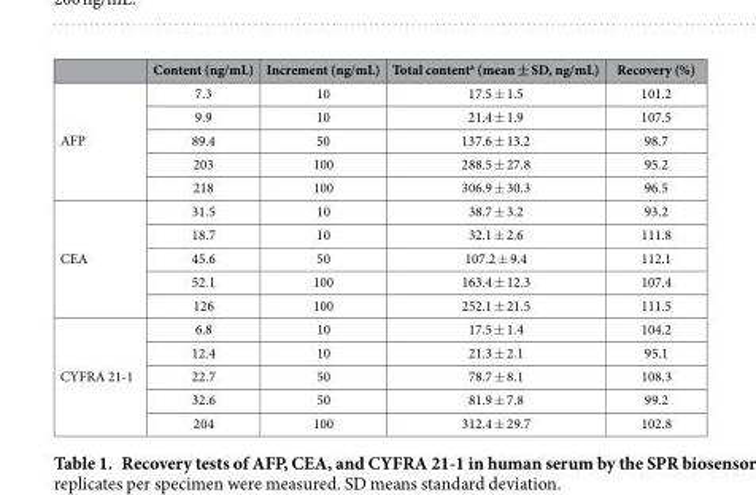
<table><thead><tr><td></td><td>Content (ng/mL)</td><td>Increment (ng/mL)</td><td>Total content<sup>a</sup> (mean ± SD, ng/mL)</td><td>Recovery (%)</td></tr></thead><tbody><tr><td rowspan="5">AFP</td><td>7.3</td><td>10</td><td>17.5 ± 1.5</td><td>101.2</td></tr><tr><td>9.9</td><td>10</td><td>21.4 ± 1.9</td><td>107.5</td></tr><tr><td>89.4</td><td>50</td><td>137.6 ± 13.2</td><td>98.7</td></tr><tr><td>203</td><td>100</td><td>288.5 ± 27.8</td><td>95.2</td></tr><tr><td>218</td><td>100</td><td>306.9 ± 30.3</td><td>96.5</td></tr><tr><td rowspan="5">CEA</td><td>31.5</td><td>10</td><td>38.7 ± 3.2</td><td>93.2</td></tr><tr><td>18.7</td><td>10</td><td>32.1 ± 2.6</td><td>111.8</td></tr><tr><td>45.6</td><td>50</td><td>107.2 ± 9.4</td><td>112.1</td></tr><tr><td>52.1</td><td>100</td><td>163.4 ± 12.3</td><td>107.4</td></tr><tr><td>126</td><td>100</td><td>252.1 ± 21.5</td><td>111.5</td></tr><tr><td rowspan="5">CYFRA 21-1</td><td>6.8</td><td>10</td><td>17.5 ± 1.4</td><td>104.2</td></tr><tr><td>12.4</td><td>10</td><td>21.3 ± 2.1</td><td>95.1</td></tr><tr><td>22.7</td><td>50</td><td>78.7 ± 8.1</td><td>108.3</td></tr><tr><td>32.6</td><td>50</td><td>81.9 ± 7.8</td><td>99.2</td></tr><tr><td>204</td><td>100</td><td>312.4 ± 29.7</td><td>102.8</td></tr></tbody></table>